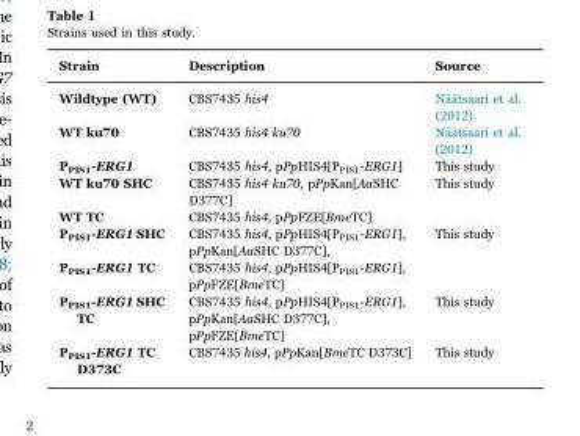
<table><thead><tr><td>Strain</td><td>Description</td><td>Source</td></tr></thead><tbody><tr><td>Wildtype (WT)</td><td>CBS7435 his4</td><td>Näätsaari et al. (2012)</td></tr><tr><td>WT ku70</td><td>CBS7435 his4 ku70</td><td>Näätsaari et al. (2012)</td></tr><tr><td>P<sub>PIS1</sub>-ERG1</td><td>CBS7435 his4, pPpHIS4[P<sub>PIS1</sub>-ERG1]</td><td>This study</td></tr><tr><td>WT ku70 SHC</td><td>CBS7435 his4 ku70, pPpKan[AaSHC D377C]</td><td>This study</td></tr><tr><td>WT TC</td><td>CBS7435 his4, pPpFZE[BmeTC]</td><td></td></tr><tr><td>P<sub>PIS1</sub>-ERG1 SHC</td><td>CBS7435 his4, pPpHIS4[P<sub>PIS1</sub>-ERG1], pPpKan[AaSHC D377C],</td><td>This study</td></tr><tr><td>P<sub>PIS1</sub>-ERG1 TC</td><td>CBS7435 his4, pPpHIS4[P<sub>PIS1</sub>-ERG1], pPpFZE[BmeTC]</td><td></td></tr><tr><td>P<sub>PIS1</sub>-ERG1 SHC TC</td><td>CBS7435 his4, pPpHIS4[P<sub>PIS1</sub>-ERG1], pPpKan[AaSHC D377C], pPpFZE[BmeTC]</td><td>This study</td></tr><tr><td>P<sub>PIS1</sub>-ERG1 TC D373C</td><td>CBS7435 his4, pPpKan[BmeTC D373C]</td><td>This study</td></tr></tbody></table>